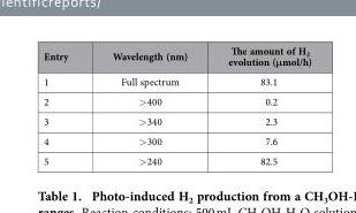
<table><tbody><tr><td>Entry</td><td>Wavelength (nm)</td><td>The amount of H<sub>2</sub> evolution (μmol/h)</td></tr><tr><td>1</td><td>Full spectrum</td><td>83.1</td></tr><tr><td>2</td><td>&gt; 400</td><td>0.2</td></tr><tr><td>3</td><td>&gt; 340</td><td>2.3</td></tr><tr><td>4</td><td>&gt; 300</td><td>7.6</td></tr><tr><td>5</td><td>&gt; 240</td><td>82.5</td></tr></tbody></table>